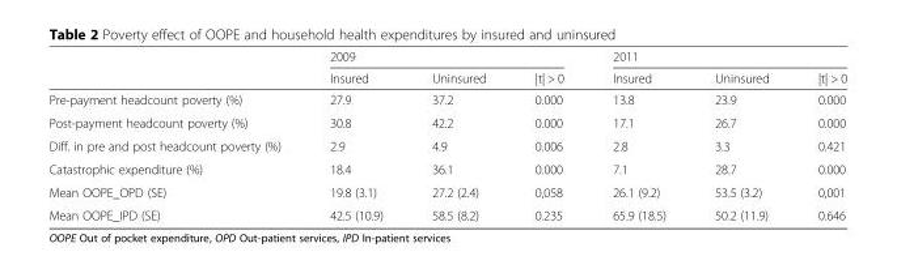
<table><thead><tr><td rowspan="2"></td><td colspan="3">2009</td><td colspan="3">2011</td></tr><tr><td>Insured</td><td>Uninsured</td><td>|t| &gt; 0</td><td>Insured</td><td>Uninsured</td><td>|t| &gt; 0</td></tr></thead><tbody><tr><td>Pre-payment headcount poverty (%)</td><td>27.9</td><td>37.2</td><td>0.000</td><td>13.8</td><td>23.9</td><td>0.000</td></tr><tr><td>Post-payment headcount poverty (%)</td><td>30.8</td><td>42.2</td><td>0.000</td><td>17.1</td><td>26.7</td><td>0.000</td></tr><tr><td>Diff. in pre and post headcount poverty (%)</td><td>2.9</td><td>4.9</td><td>0.006</td><td>2.8</td><td>3.3</td><td>0.421</td></tr><tr><td>Catastrophic expenditure (%)</td><td>18.4</td><td>36.1</td><td>0.000</td><td>7.1</td><td>28.7</td><td>0.000</td></tr><tr><td>Mean OOPE_OPD (SE)</td><td>19.8 (3.1)</td><td>27.2 (2.4)</td><td>0,058</td><td>26.1 (9.2)</td><td>53.5 (3.2)</td><td>0,001</td></tr><tr><td>Mean OOPE_IPD (SE)</td><td>42.5 (10.9)</td><td>58.5 (8.2)</td><td>0.235</td><td>65.9 (18.5)</td><td>50.2 (11.9)</td><td>0.646</td></tr></tbody></table>